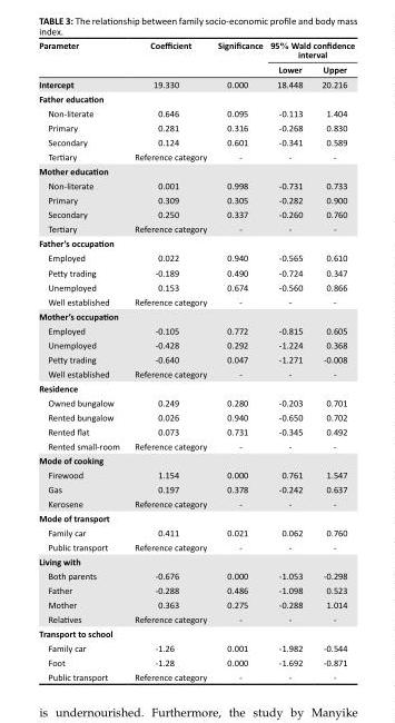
<table><thead><tr><td rowspan="2">Parameter</td><td rowspan="2">Coefficient</td><td rowspan="2">Significance</td><td colspan="2">95% Wald confidence interval</td></tr><tr><td>Lower</td><td>Upper</td></tr></thead><tbody><tr><td>Intercept</td><td>19.330</td><td>0.000</td><td>18.448</td><td>20.216</td></tr><tr><td colspan="5">Father education</td></tr><tr><td>Non-literate</td><td>0.646</td><td>0.095</td><td>-0.113</td><td>1.404</td></tr><tr><td>Primary</td><td>0.281</td><td>0.316</td><td>-0.268</td><td>0.830</td></tr><tr><td>Secondary</td><td>0.124</td><td>0.601</td><td>-0.341</td><td>0.589</td></tr><tr><td>Tertiary</td><td>Reference category</td><td>-</td><td>-</td><td>-</td></tr><tr><td colspan="5">Mother education</td></tr><tr><td>Non-literate</td><td>0.001</td><td>0.998</td><td>-0.731</td><td>0.733</td></tr><tr><td>Primary</td><td>0.309</td><td>0.305</td><td>-0.282</td><td>0.900</td></tr><tr><td>Secondary</td><td>0.250</td><td>0.337</td><td>-0.260</td><td>0.760</td></tr><tr><td>Tertiary</td><td>Reference category</td><td>-</td><td>-</td><td>-</td></tr><tr><td colspan="5">Father’s occupation</td></tr><tr><td>Employed</td><td>0.022</td><td>0.940</td><td>-0.565</td><td>0.610</td></tr><tr><td>Petty trading</td><td>-0.189</td><td>0.490</td><td>-0.724</td><td>0.347</td></tr><tr><td>Unemployed</td><td>0.153</td><td>0.674</td><td>-0.560</td><td>0.866</td></tr><tr><td>Well established</td><td>Reference category</td><td>-</td><td>-</td><td>-</td></tr><tr><td colspan="5">Mother’s occupation</td></tr><tr><td>Employed</td><td>-0.105</td><td>0.772</td><td>-0.815</td><td>0.605</td></tr><tr><td>Unemployed</td><td>-0.428</td><td>0.292</td><td>-1.224</td><td>0.368</td></tr><tr><td>Petty trading</td><td>-0.640</td><td>0.047</td><td>-1.271</td><td>-0.008</td></tr><tr><td>Well established</td><td>Reference category</td><td>-</td><td>-</td><td>-</td></tr><tr><td colspan="5">Residence</td></tr><tr><td>Owned bungalow</td><td>0.249</td><td>0.280</td><td>-0.203</td><td>0.701</td></tr><tr><td>Rented bungalow</td><td>0.026</td><td>0.940</td><td>-0.650</td><td>0.702</td></tr><tr><td>Rented flat</td><td>0.073</td><td>0.731</td><td>-0.345</td><td>0.492</td></tr><tr><td>Rented small-room</td><td>Reference category</td><td>-</td><td>-</td><td>-</td></tr><tr><td colspan="5">Mode of cooking</td></tr><tr><td>Firewood</td><td>1.154</td><td>0.000</td><td>0.761</td><td>1.547</td></tr><tr><td>Gas</td><td>0.197</td><td>0.378</td><td>-0.242</td><td>0.637</td></tr><tr><td>Kerosene</td><td>Reference category</td><td>-</td><td>-</td><td>-</td></tr><tr><td colspan="5">Mode of transport</td></tr><tr><td>Family car</td><td>0.411</td><td>0.021</td><td>0.062</td><td>0.760</td></tr><tr><td>Public transport</td><td>Reference category</td><td>-</td><td>-</td><td>-</td></tr><tr><td colspan="5">Living with</td></tr><tr><td>Both parents</td><td>-0.676</td><td>0.000</td><td>-1.053</td><td>-0.298</td></tr><tr><td>Father</td><td>-0.288</td><td>0.486</td><td>-1.098</td><td>0.523</td></tr><tr><td>Mother</td><td>0.363</td><td>0.275</td><td>-0.288</td><td>1.014</td></tr><tr><td>Relatives</td><td>Reference category</td><td>-</td><td>-</td><td>-</td></tr><tr><td colspan="5">Transport to school</td></tr><tr><td>Family car</td><td>-1.26</td><td>0.001</td><td>-1.982</td><td>-0.544</td></tr><tr><td>Foot</td><td>-1.28</td><td>0.000</td><td>-1.692</td><td>-0.871</td></tr><tr><td>Public transport</td><td>Reference category</td><td>-</td><td>-</td><td>-</td></tr></tbody></table>